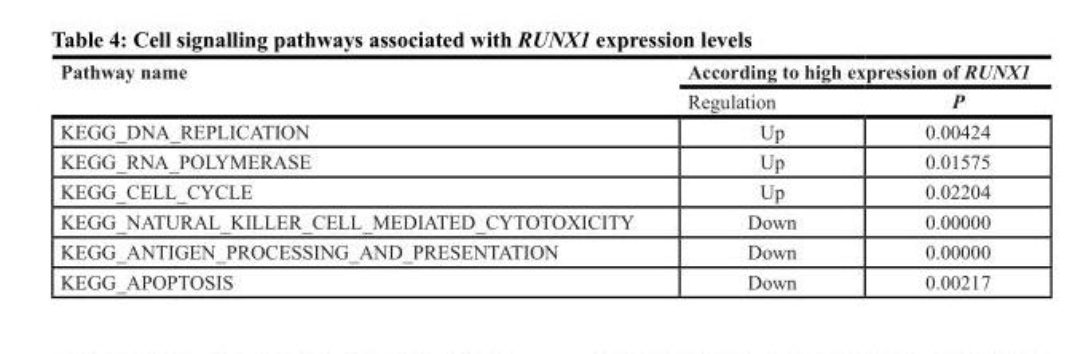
<table><thead><tr><td rowspan="2">Pathway name</td><td colspan="2">According to high expression of RUNX1</td></tr><tr><td>Regulation</td><td>P</td></tr></thead><tbody><tr><td>KEGG_DNA_REPLICATION</td><td>Up</td><td>0.00424</td></tr><tr><td>KEGG_RNA_POLYMERASE</td><td>Up</td><td>0.01575</td></tr><tr><td>KEGG_CELL_CYCLE</td><td>Up</td><td>0.02204</td></tr><tr><td>KEGG_NATURAL_KILLER_CELL_MEDIATED_CYTOTOXICITY</td><td>Down</td><td>0.00000</td></tr><tr><td>KEGG_ANTIGEN_PROCESSING_AND_PRESENTATION</td><td>Down</td><td>0.00000</td></tr><tr><td>KEGG_APOPTOSIS</td><td>Down</td><td>0.00217</td></tr></tbody></table>